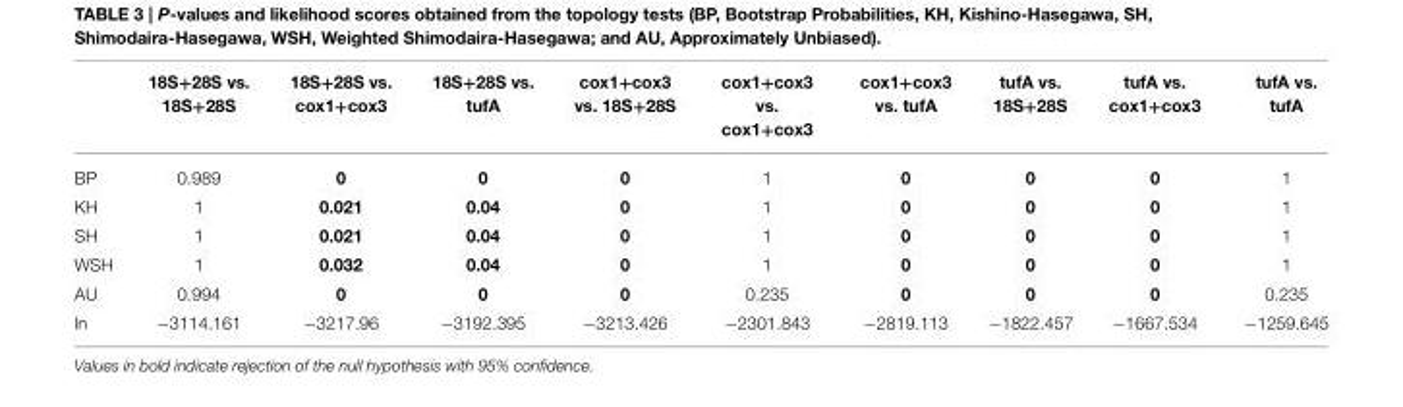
<table><thead><tr><td></td><td>18S+28S vs. 18S+28S</td><td>18S+28S vs. cox1+cox3</td><td>18S+28S vs. tufA</td><td>cox1+cox3 vs. 18S+28S</td><td>cox1+cox3 vs. cox1+cox3</td><td>cox1+cox3 vs. tufA</td><td>tufA vs. 18S+28S</td><td>tufA vs. cox1+cox3</td><td>tufA vs. tufA</td></tr></thead><tbody><tr><td>BP</td><td>0.989</td><td>0</td><td>0</td><td>0</td><td>1</td><td>0</td><td>0</td><td>0</td><td>1</td></tr><tr><td>KH</td><td>1</td><td>0.021</td><td>0.04</td><td>0</td><td>1</td><td>0</td><td>0</td><td>0</td><td>1</td></tr><tr><td>SH</td><td>1</td><td>0.021</td><td>0.04</td><td>0</td><td>1</td><td>0</td><td>0</td><td>0</td><td>1</td></tr><tr><td>WSH</td><td>1</td><td>0.032</td><td>0.04</td><td>0</td><td>1</td><td>0</td><td>0</td><td>0</td><td>1</td></tr><tr><td>AU</td><td>0.994</td><td>0</td><td>0</td><td>0</td><td>0.235</td><td>0</td><td>0</td><td>0</td><td>0.235</td></tr><tr><td>ln</td><td>−3114.161</td><td>−3217.96</td><td>−3192.395</td><td>−3213.426</td><td>−2301.843</td><td>−2819.113</td><td>−1822.457</td><td>−1667.534</td><td>−1259.645</td></tr></tbody></table>